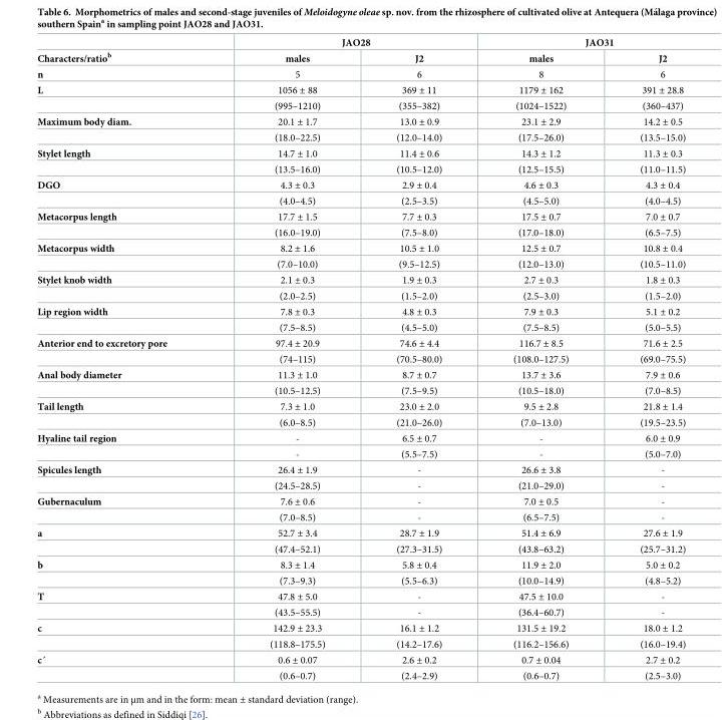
<table><thead><tr><td rowspan="2">Characters/ratio<sup>b</sup></td><td colspan="2">JAO28</td><td colspan="2">JAO31</td></tr><tr><td>males</td><td>J2</td><td>males</td><td>J2</td></tr></thead><tbody><tr><td>n</td><td>5</td><td>6</td><td>8</td><td>6</td></tr><tr><td rowspan="2">L</td><td>1056 ± 88</td><td>369 ± 11</td><td>1179 ± 162</td><td>391 ± 28.8</td></tr><tr><td>(995–1210)</td><td>(355–382)</td><td>(1024–1522)</td><td>(360–437)</td></tr><tr><td rowspan="2">Maximum body diam.</td><td>20.1 ± 1.7</td><td>13.0 ± 0.9</td><td>23.1 ± 2.9</td><td>14.2 ± 0.5</td></tr><tr><td>(18.0–22.5)</td><td>(12.0–14.0)</td><td>(17.5–26.0)</td><td>(13.5–15.0)</td></tr><tr><td rowspan="2">Stylet length</td><td>14.7 ± 1.0</td><td>11.4 ± 0.6</td><td>14.3 ± 1.2</td><td>11.3 ± 0.3</td></tr><tr><td>(13.5–16.0)</td><td>(10.5–12.0)</td><td>(12.5–15.5)</td><td>(11.0–11.5)</td></tr><tr><td rowspan="2">DGO</td><td>4.3 ± 0.3</td><td>2.9 ± 0.4</td><td>4.6 ± 0.3</td><td>4.3 ± 0.4</td></tr><tr><td>(4.0–4.5)</td><td>(2.5–3.5)</td><td>(4.5–5.0)</td><td>(4.0–4.5)</td></tr><tr><td rowspan="2">Metacorpus length</td><td>17.7 ± 1.5</td><td>7.7 ± 0.3</td><td>17.5 ± 0.7</td><td>7.0 ± 0.7</td></tr><tr><td>(16.0–19.0)</td><td>(7.5–8.0)</td><td>(17.0–18.0)</td><td>(6.5–7.5)</td></tr><tr><td rowspan="2">Metacorpus width</td><td>8.2 ± 1.6</td><td>10.5 ± 1.0</td><td>12.5 ± 0.7</td><td>10.8 ± 0.4</td></tr><tr><td>(7.0–10.0)</td><td>(9.5–12.5)</td><td>(12.0–13.0)</td><td>(10.5–11.0)</td></tr><tr><td rowspan="2">Stylet knob width</td><td>2.1 ± 0.3</td><td>1.9 ± 0.3</td><td>2.7 ± 0.3</td><td>1.8 ± 0.3</td></tr><tr><td>(2.0–2.5)</td><td>(1.5–2.0)</td><td>(2.5–3.0)</td><td>(1.5–2.0)</td></tr><tr><td rowspan="2">Lip region width</td><td>7.8 ± 0.3</td><td>4.8 ± 0.3</td><td>7.9 ± 0.3</td><td>5.1 ± 0.2</td></tr><tr><td>(7.5–8.5)</td><td>(4.5–5.0)</td><td>(7.5–8.5)</td><td>(5.0–5.5)</td></tr><tr><td rowspan="2">Anterior end to excretory pore</td><td>97.4 ± 20.9</td><td>74.6 ± 4.4</td><td>116.7 ± 8.5</td><td>71.6 ± 2.5</td></tr><tr><td>(74–115)</td><td>(70.5–80.0)</td><td>(108.0–127.5)</td><td>(69.0–75.5)</td></tr><tr><td rowspan="2">Anal body diameter</td><td>11.3 ± 1.0</td><td>8.7 ± 0.7</td><td>13.7 ± 3.6</td><td>7.9 ± 0.6</td></tr><tr><td>(10.5–12.5)</td><td>(7.5–9.5)</td><td>(10.5–18.0)</td><td>(7.0–8.5)</td></tr><tr><td rowspan="2">Tail length</td><td>7.3 ± 1.0</td><td>23.0 ± 2.0</td><td>9.5 ± 2.8</td><td>21.8 ± 1.4</td></tr><tr><td>(6.0–8.5)</td><td>(21.0–26.0)</td><td>(7.0–13.0)</td><td>(19.5–23.5)</td></tr><tr><td rowspan="2">Hyaline tail region</td><td>-</td><td>6.5 ± 0.7</td><td>-</td><td>6.0 ± 0.9</td></tr><tr><td>-</td><td>(5.5–7.5)</td><td>-</td><td>(5.0–7.0)</td></tr><tr><td rowspan="2">Spicules length</td><td>26.4 ± 1.9</td><td>-</td><td>26.6 ± 3.8</td><td>-</td></tr><tr><td>(24.5–28.5)</td><td>-</td><td>(21.0–29.0)</td><td>-</td></tr><tr><td rowspan="2">Gubernaculum</td><td>7.6 ± 0.6</td><td>-</td><td>7.0 ± 0.5</td><td>-</td></tr><tr><td>(7.0–8.5)</td><td>-</td><td>(6.5–7.5)</td><td>-</td></tr><tr><td rowspan="2">a</td><td>52.7 ± 3.4</td><td>28.7 ± 1.9</td><td>51.4 ± 6.9</td><td>27.6 ± 1.9</td></tr><tr><td>(47.4–52.1)</td><td>(27.3–31.5)</td><td>(43.8–63.2)</td><td>(25.7–31.2)</td></tr><tr><td rowspan="2">b</td><td>8.3 ± 1.4</td><td>5.8 ± 0.4</td><td>11.9 ± 2.0</td><td>5.0 ± 0.2</td></tr><tr><td>(7.3–9.3)</td><td>(5.5–6.3)</td><td>(10.0–14.9)</td><td>(4.8–5.2)</td></tr><tr><td rowspan="2">T</td><td>47.8 ± 5.0</td><td>-</td><td>47.5 ± 10.0</td><td>-</td></tr><tr><td>(43.5–55.5)</td><td>-</td><td>(36.4–60.7)</td><td>-</td></tr><tr><td rowspan="2">c</td><td>142.9 ± 23.3</td><td>16.1 ± 1.2</td><td>131.5 ± 19.2</td><td>18.0 ± 1.2</td></tr><tr><td>(118.8–175.5)</td><td>(14.2–17.6)</td><td>(116.2–156.6)</td><td>(16.0–19.4)</td></tr><tr><td rowspan="2">c´</td><td>0.6 ± 0.07</td><td>2.6 ± 0.2</td><td>0.7 ± 0.04</td><td>2.7 ± 0.2</td></tr><tr><td>(0.6–0.7)</td><td>(2.4–2.9)</td><td>(0.6–0.7)</td><td>(2.5–3.0)</td></tr></tbody></table>